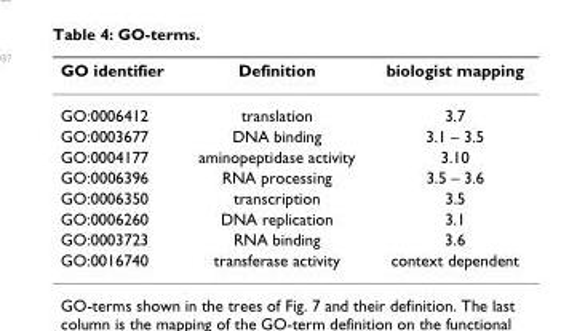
<table><thead><tr><td>GO identifier</td><td>Definition</td><td>biologist mapping</td></tr></thead><tbody><tr><td>GO:0006412</td><td>translation</td><td>3.7</td></tr><tr><td>GO:0003677</td><td>DNA binding</td><td>3.1 – 3.5</td></tr><tr><td>GO:0004177</td><td>aminopeptidase activity</td><td>3.10</td></tr><tr><td>GO:0006396</td><td>RNA processing</td><td>3.5 – 3.6</td></tr><tr><td>GO:0006350</td><td>transcription</td><td>3.5</td></tr><tr><td>GO:0006260</td><td>DNA replication</td><td>3.1</td></tr><tr><td>GO:0003723</td><td>RNA binding</td><td>3.6</td></tr><tr><td>GO:0016740</td><td>transferase activity</td><td>context dependent</td></tr></tbody></table>